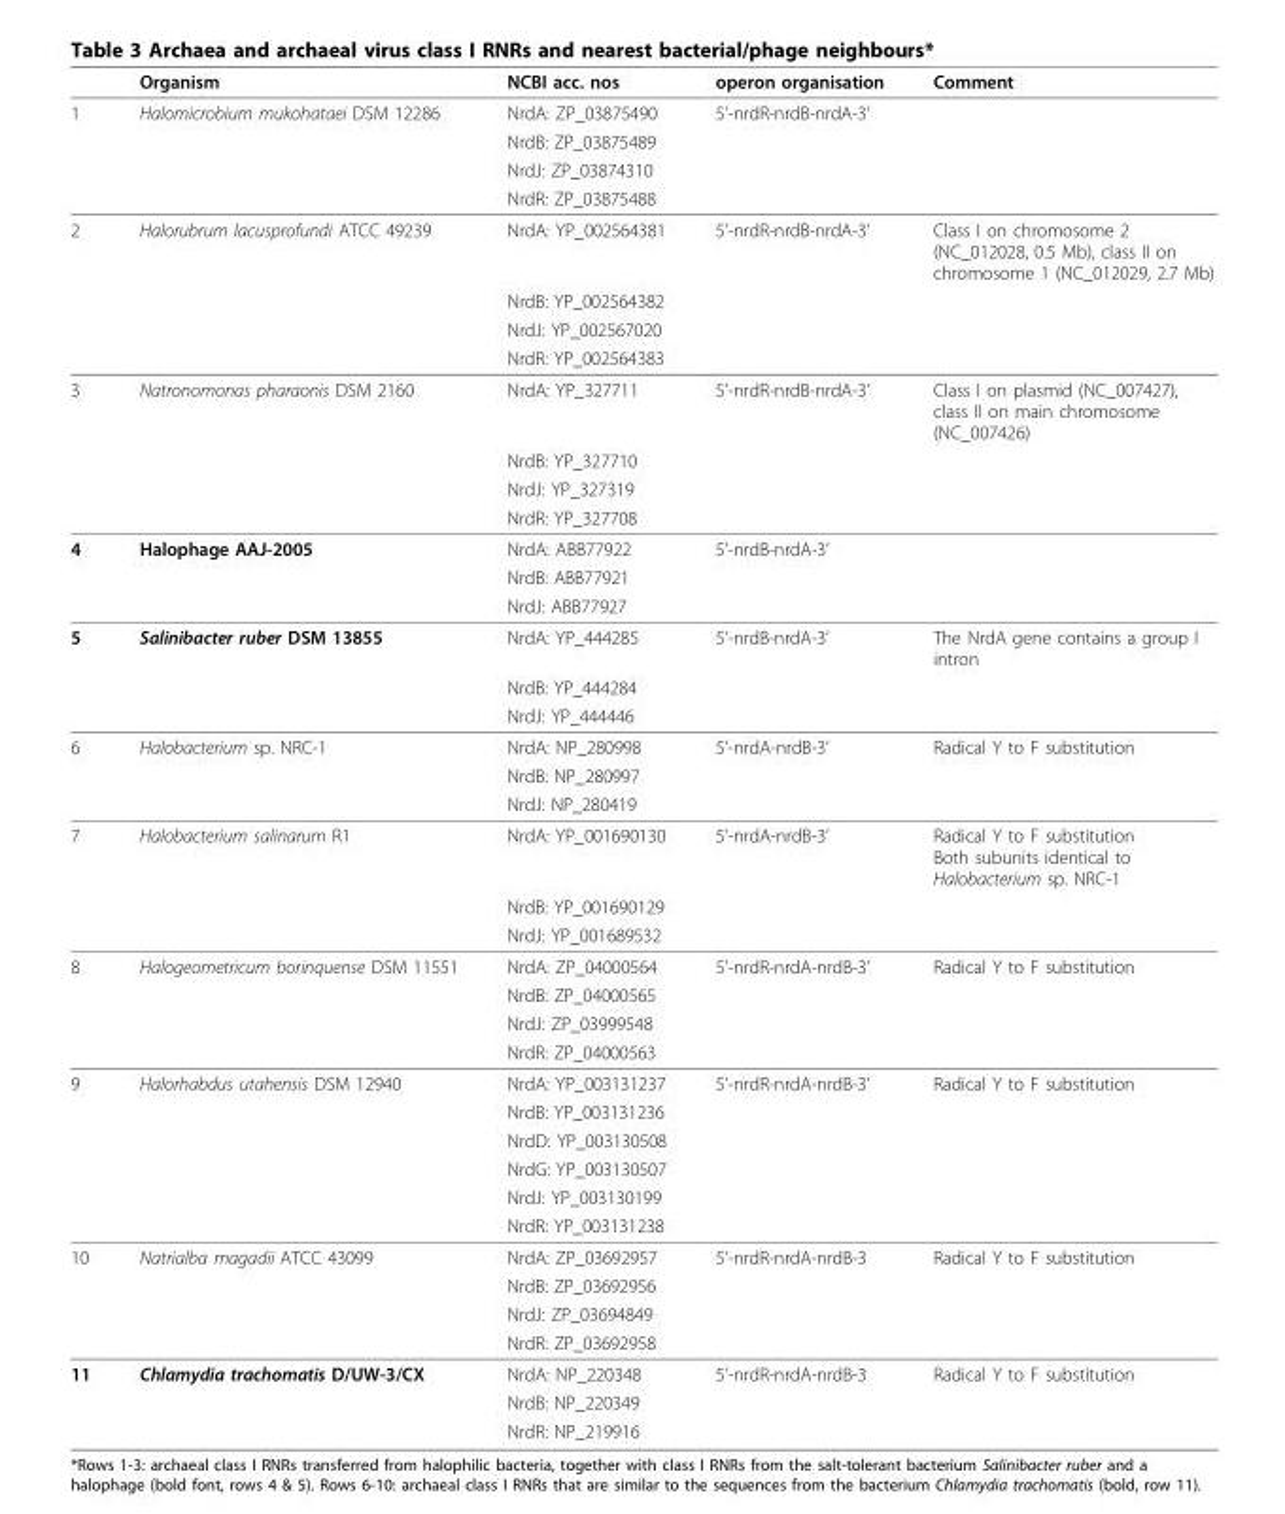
<table><thead><tr><td></td><td>Organism</td><td>NCBI acc. nos</td><td>operon organisation</td><td>Comment</td></tr></thead><tbody><tr><td rowspan="4">1</td><td>Halomicrobium mukohataei DSM 12286</td><td>NrdA: ZP_03875490</td><td>5’-nrdR-nrdB-nrdA-3’</td><td></td></tr><tr><td></td><td>NrdB: ZP_03875489</td><td></td><td></td></tr><tr><td></td><td>NrdJ: ZP_03874310</td><td></td><td></td></tr><tr><td></td><td>NrdR: ZP_03875488</td><td></td><td></td></tr><tr><td rowspan="4">2</td><td>Halorubrum lacusprofundi ATCC 49239</td><td>NrdA: YP_002564381</td><td>5’-nrdR-nrdB-nrdA-3’</td><td>Class I on chromosome 2 (NC_012028, 0.5 Mb), class II on chromosome 1 (NC_012029, 2.7 Mb)</td></tr><tr><td></td><td>NrdB: YP_002564382</td><td></td><td></td></tr><tr><td></td><td>NrdJ: YP_002567020</td><td></td><td></td></tr><tr><td></td><td>NrdR: YP_002564383</td><td></td><td></td></tr><tr><td rowspan="4">3</td><td>Natronomonas pharaonis DSM 2160</td><td>NrdA: YP_327711</td><td>5’-nrdR-nrdB-nrdA-3’</td><td>Class I on plasmid (NC_007427), class II on main chromosome (NC_007426)</td></tr><tr><td></td><td>NrdB: YP_327710</td><td></td><td></td></tr><tr><td></td><td>NrdJ: YP_327319</td><td></td><td></td></tr><tr><td></td><td>NrdR: YP_327708</td><td></td><td></td></tr><tr><td rowspan="3">4</td><td>Halophage AAJ-2005</td><td>NrdA: ABB77922</td><td>5’-nrdB-nrdA-3’</td><td></td></tr><tr><td></td><td>NrdB: ABB77921</td><td></td><td></td></tr><tr><td></td><td>NrdJ: ABB77927</td><td></td><td></td></tr><tr><td rowspan="3">5</td><td>Salinibacter ruber DSM 13855</td><td>NrdA: YP_444285</td><td>5’-nrdB-nrdA-3’</td><td>The NrdA gene contains a group I intron</td></tr><tr><td></td><td>NrdB: YP_444284</td><td></td><td></td></tr><tr><td></td><td>NrdJ: YP_444446</td><td></td><td></td></tr><tr><td rowspan="3">6</td><td>Halobacterium sp. NRC-1</td><td>NrdA: NP_280998</td><td>5’-nrdA-nrdB-3’</td><td>Radical Y to F substitution</td></tr><tr><td></td><td>NrdB: NP_280997</td><td></td><td></td></tr><tr><td></td><td>NrdJ: NP_280419</td><td></td><td></td></tr><tr><td rowspan="3">7</td><td>Halobacterium salinarum R1</td><td>NrdA: YP_001690130</td><td>5’-nrdA-nrdB-3’</td><td>Radical Y to F substitution Both subunits identical to Halobacterium sp. NRC-1</td></tr><tr><td></td><td>NrdB: YP_001690129</td><td></td><td></td></tr><tr><td></td><td>NrdJ: YP_001689532</td><td></td><td></td></tr><tr><td rowspan="4">8</td><td>Halogeometricum borinquense DSM 11551</td><td>NrdA: ZP_04000564</td><td>5’-nrdR-nrdA-nrdB-3’</td><td>Radical Y to F substitution</td></tr><tr><td></td><td>NrdB: ZP_04000565</td><td></td><td></td></tr><tr><td></td><td>NrdJ: ZP_03999548</td><td></td><td></td></tr><tr><td></td><td>NrdR: ZP_04000563</td><td></td><td></td></tr><tr><td rowspan="6">9</td><td>Halorhabdus utahensis DSM 12940</td><td>NrdA: YP_003131237</td><td>5’-nrdR-nrdA-nrdB-3’</td><td>Radical Y to F substitution</td></tr><tr><td></td><td>NrdB: YP_003131236</td><td></td><td></td></tr><tr><td></td><td>NrdD: YP_003130508</td><td></td><td></td></tr><tr><td></td><td>NrdG: YP_003130507</td><td></td><td></td></tr><tr><td></td><td>NrdJ: YP_003130199</td><td></td><td></td></tr><tr><td></td><td>NrdR: YP_003131238</td><td></td><td></td></tr><tr><td rowspan="4">10</td><td>Natrialba magadii ATCC 43099</td><td>NrdA: ZP_03692957</td><td>5’-nrdR-nrdA-nrdB-3</td><td>Radical Y to F substitution</td></tr><tr><td></td><td>NrdB: ZP_03692956</td><td></td><td></td></tr><tr><td></td><td>NrdJ: ZP_03694849</td><td></td><td></td></tr><tr><td></td><td>NrdR: ZP_03692958</td><td></td><td></td></tr><tr><td rowspan="3">11</td><td>Chlamydia trachomatis D/UW-3/CX</td><td>NrdA: NP_220348</td><td>5’-nrdR-nrdA-nrdB-3</td><td>Radical Y to F substitution</td></tr><tr><td></td><td>NrdB: NP_220349</td><td></td><td></td></tr><tr><td></td><td>NrdR: NP_219916</td><td></td><td></td></tr></tbody></table>